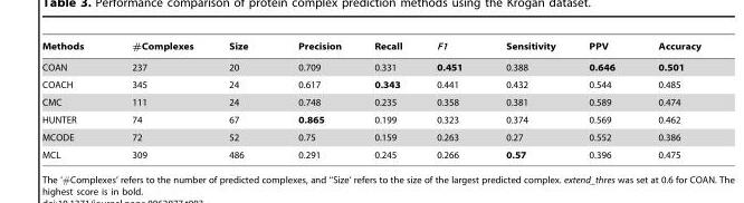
<table><thead><tr><td>Methods</td><td>#Complexes</td><td>Size</td><td>Precision</td><td>Recall</td><td>F1</td><td>Sensitivity</td><td>PPV</td><td>Accuracy</td></tr></thead><tbody><tr><td>COAN</td><td>237</td><td>20</td><td>0.709</td><td>0.331</td><td>0.451</td><td>0.388</td><td>0.646</td><td>0.501</td></tr><tr><td>COACH</td><td>345</td><td>24</td><td>0.617</td><td>0.343</td><td>0.441</td><td>0.432</td><td>0.544</td><td>0.485</td></tr><tr><td>CMC</td><td>111</td><td>24</td><td>0.748</td><td>0.235</td><td>0.358</td><td>0.381</td><td>0.589</td><td>0.474</td></tr><tr><td>HUNTER</td><td>74</td><td>67</td><td>0.865</td><td>0.199</td><td>0.323</td><td>0.374</td><td>0.569</td><td>0.462</td></tr><tr><td>MCODE</td><td>72</td><td>52</td><td>0.75</td><td>0.159</td><td>0.263</td><td>0.27</td><td>0.552</td><td>0.386</td></tr><tr><td>MCL</td><td>309</td><td>486</td><td>0.291</td><td>0.245</td><td>0.266</td><td>0.57</td><td>0.396</td><td>0.475</td></tr></tbody></table>